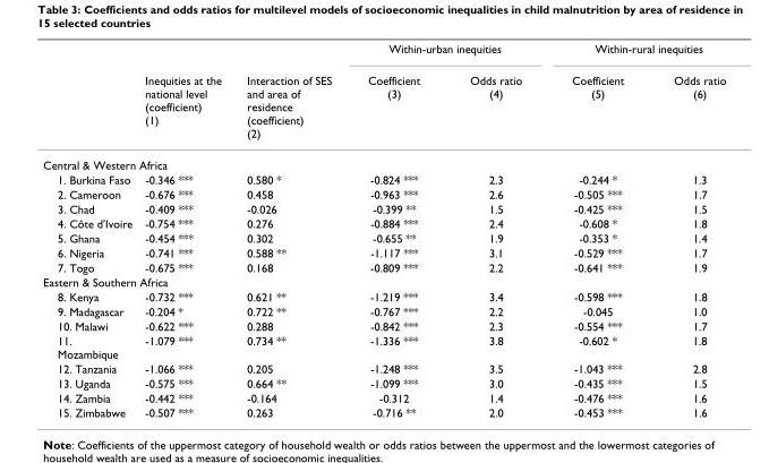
<table><thead><tr><td rowspan="2"></td><td rowspan="2">Inequities at the national level (coefficient) (1)</td><td rowspan="2">Interaction of SES and area of residence (coefficient) (2)</td><td colspan="2">Within-urban inequities</td><td colspan="2">Within-rural inequities</td></tr><tr><td>Coefficient (3)</td><td>Odds ratio (4)</td><td>Coefficient (5)</td><td>Odds ratio (6)</td></tr></thead><tbody><tr><td colspan="7">Central &amp; Western Africa</td></tr><tr><td>1. Burkina Faso</td><td>-0.346 ***</td><td>0.580 *</td><td>-0.824 ***</td><td>2.3</td><td>-0.244 *</td><td>1.3</td></tr><tr><td>2. Cameroon</td><td>-0.676 ***</td><td>0.458</td><td>-0.963 ***</td><td>2.6</td><td>-0.505 ***</td><td>1.7</td></tr><tr><td>3. Chad</td><td>-0.409 ***</td><td>-0.026</td><td>-0.399 **</td><td>1.5</td><td>-0.425 ***</td><td>1.5</td></tr><tr><td>4. Côte d&#x27;Ivoire</td><td>-0.754 ***</td><td>0.276</td><td>-0.884 ***</td><td>2.4</td><td>-0.608 *</td><td>1.8</td></tr><tr><td>5. Ghana</td><td>-0.454 ***</td><td>0.302</td><td>-0.655 **</td><td>1.9</td><td>-0.353 *</td><td>1.4</td></tr><tr><td>6. Nigeria</td><td>-0.741 ***</td><td>0.588 **</td><td>-1.117 ***</td><td>3.1</td><td>-0.529 ***</td><td>1.7</td></tr><tr><td>7. Togo</td><td>-0.675 ***</td><td>0.168</td><td>-0.809 ***</td><td>2.2</td><td>-0.641 ***</td><td>1.9</td></tr><tr><td colspan="7">Eastern &amp; Southern Africa</td></tr><tr><td>8. Kenya</td><td>-0.732 ***</td><td>0.621 **</td><td>-1.219 ***</td><td>3.4</td><td>-0.598 ***</td><td>1.8</td></tr><tr><td>9. Madagascar</td><td>-0.204 *</td><td>0.722 **</td><td>-0.767 ***</td><td>2.2</td><td>-0.045</td><td>1.0</td></tr><tr><td>10. Malawi</td><td>-0.622 ***</td><td>0.288</td><td>-0.842 ***</td><td>2.3</td><td>-0.554 ***</td><td>1.7</td></tr><tr><td>11. Mozambique</td><td>-1.079 ***</td><td>0.734 **</td><td>-1.336 ***</td><td>3.8</td><td>-0.602 *</td><td>1.8</td></tr><tr><td>12. Tanzania</td><td>-1.066 ***</td><td>0.205</td><td>-1.248 ***</td><td>3.5</td><td>-1.043 ***</td><td>2.8</td></tr><tr><td>13. Uganda</td><td>-0.575 ***</td><td>0.664 **</td><td>-1.099 ***</td><td>3.0</td><td>-0.435 ***</td><td>1.5</td></tr><tr><td>14. Zambia</td><td>-0.442 ***</td><td>-0.164</td><td>-0.312</td><td>1.4</td><td>-0.476 ***</td><td>1.6</td></tr><tr><td>15. Zimbabwe</td><td>-0.507 ***</td><td>0.263</td><td>-0.716 **</td><td>2.0</td><td>-0.453 ***</td><td>1.6</td></tr></tbody></table>